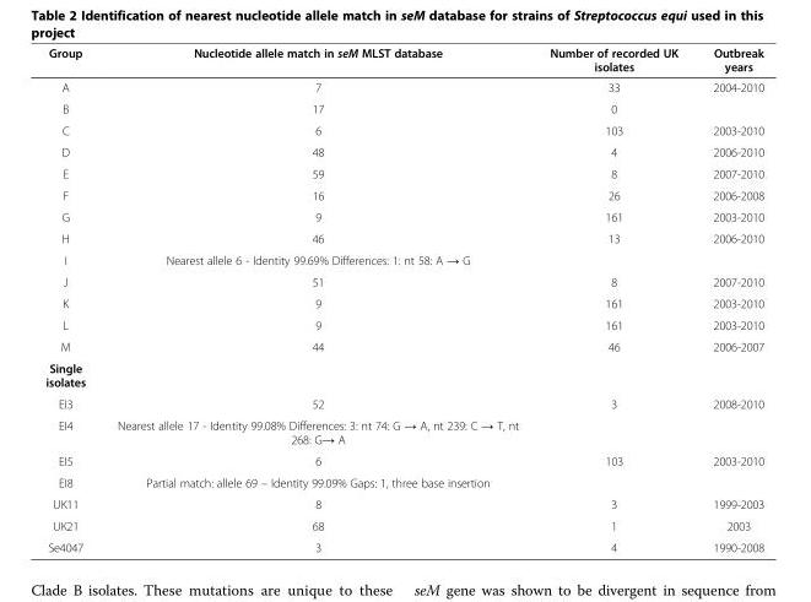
<table><thead><tr><td>Group</td><td>Nucleotide allele match in seM MLST database</td><td>Number of recorded UK isolates</td><td>Outbreak years</td></tr></thead><tbody><tr><td>A</td><td>7</td><td>33</td><td>2004-2010</td></tr><tr><td>B</td><td>17</td><td>0</td><td></td></tr><tr><td>C</td><td>6</td><td>103</td><td>2003-2010</td></tr><tr><td>D</td><td>48</td><td>4</td><td>2006-2010</td></tr><tr><td>E</td><td>59</td><td>8</td><td>2007-2010</td></tr><tr><td>F</td><td>16</td><td>26</td><td>2006-2008</td></tr><tr><td>G</td><td>9</td><td>161</td><td>2003-2010</td></tr><tr><td>H</td><td>46</td><td>13</td><td>2006-2010</td></tr><tr><td>I</td><td>Nearest allele 6 - Identity 99.69% Differences: 1: nt 58: A → G</td><td></td><td></td></tr><tr><td>J</td><td>51</td><td>8</td><td>2007-2010</td></tr><tr><td>K</td><td>9</td><td>161</td><td>2003-2010</td></tr><tr><td>L</td><td>9</td><td>161</td><td>2003-2010</td></tr><tr><td>M</td><td>44</td><td>46</td><td>2006-2007</td></tr><tr><td colspan="4">Single isolates</td></tr><tr><td>EI3</td><td>52</td><td>3</td><td>2008-2010</td></tr><tr><td>EI4</td><td>Nearest allele 17 - Identity 99.08% Differences: 3: nt 74: G → A, nt 239: C → T, nt 268: G→ A</td><td></td><td></td></tr><tr><td>EI5</td><td>6</td><td>103</td><td>2003-2010</td></tr><tr><td>EI8</td><td>Partial match: allele 69 – Identity 99.09% Gaps: 1, three base insertion</td><td></td><td></td></tr><tr><td>UK11</td><td>8</td><td>3</td><td>1999-2003</td></tr><tr><td>UK21</td><td>68</td><td>1</td><td>2003</td></tr><tr><td>Se4047</td><td>3</td><td>4</td><td>1990-2008</td></tr></tbody></table>